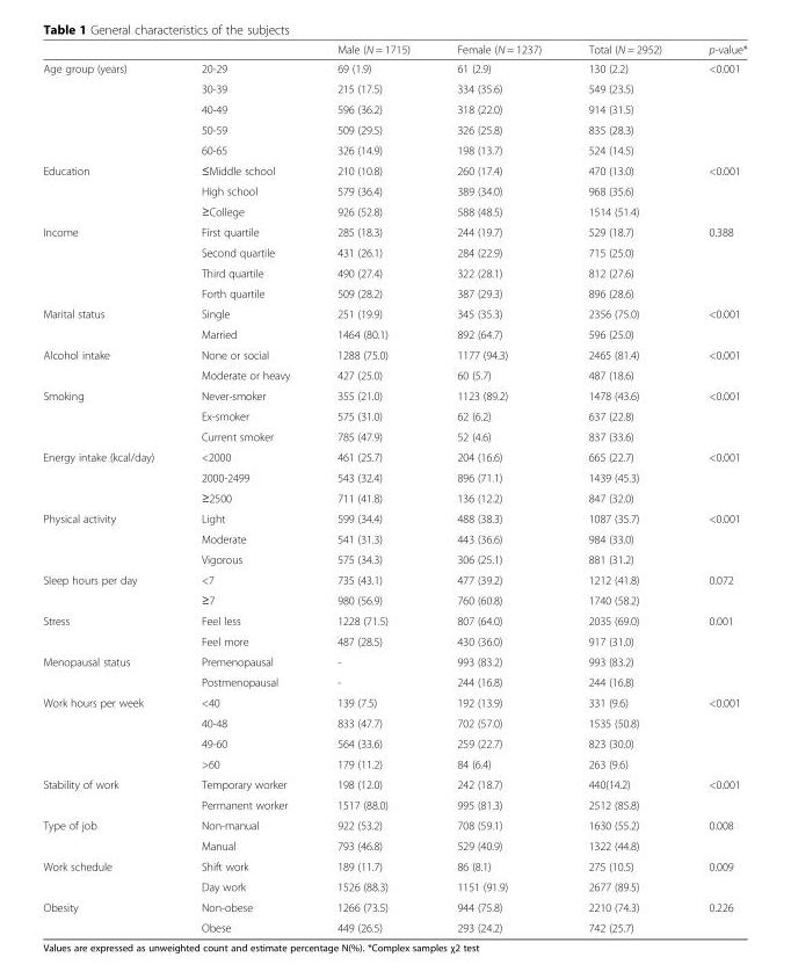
<table><thead><tr><td></td><td></td><td>Male (N = 1715)</td><td>Female (N = 1237)</td><td>Total (N = 2952)</td><td>p-value*</td></tr></thead><tbody><tr><td rowspan="5">Age group (years)</td><td>20-29</td><td>69 (1.9)</td><td>61 (2.9)</td><td>130 (2.2)</td><td>&lt;0.001</td></tr><tr><td>30-39</td><td>215 (17.5)</td><td>334 (35.6)</td><td>549 (23.5)</td><td></td></tr><tr><td>40-49</td><td>596 (36.2)</td><td>318 (22.0)</td><td>914 (31.5)</td><td></td></tr><tr><td>50-59</td><td>509 (29.5)</td><td>326 (25.8)</td><td>835 (28.3)</td><td></td></tr><tr><td>60-65</td><td>326 (14.9)</td><td>198 (13.7)</td><td>524 (14.5)</td><td></td></tr><tr><td rowspan="3">Education</td><td>≤Middle school</td><td>210 (10.8)</td><td>260 (17.4)</td><td>470 (13.0)</td><td>&lt;0.001</td></tr><tr><td>High school</td><td>579 (36.4)</td><td>389 (34.0)</td><td>968 (35.6)</td><td></td></tr><tr><td>≥College</td><td>926 (52.8)</td><td>588 (48.5)</td><td>1514 (51.4)</td><td></td></tr><tr><td rowspan="4">Income</td><td>First quartile</td><td>285 (18.3)</td><td>244 (19.7)</td><td>529 (18.7)</td><td>0.388</td></tr><tr><td>Second quartile</td><td>431 (26.1)</td><td>284 (22.9)</td><td>715 (25.0)</td><td></td></tr><tr><td>Third quartile</td><td>490 (27.4)</td><td>322 (28.1)</td><td>812 (27.6)</td><td></td></tr><tr><td>Forth quartile</td><td>509 (28.2)</td><td>387 (29.3)</td><td>896 (28.6)</td><td></td></tr><tr><td rowspan="2">Marital status</td><td>Single</td><td>251 (19.9)</td><td>345 (35.3)</td><td>2356 (75.0)</td><td>&lt;0.001</td></tr><tr><td>Married</td><td>1464 (80.1)</td><td>892 (64.7)</td><td>596 (25.0)</td><td></td></tr><tr><td rowspan="2">Alcohol intake</td><td>None or social</td><td>1288 (75.0)</td><td>1177 (94.3)</td><td>2465 (81.4)</td><td>&lt;0.001</td></tr><tr><td>Moderate or heavy</td><td>427 (25.0)</td><td>60 (5.7)</td><td>487 (18.6)</td><td></td></tr><tr><td rowspan="3">Smoking</td><td>Never-smoker</td><td>355 (21.0)</td><td>1123 (89.2)</td><td>1478 (43.6)</td><td>&lt;0.001</td></tr><tr><td>Ex-smoker</td><td>575 (31.0)</td><td>62 (6.2)</td><td>637 (22.8)</td><td></td></tr><tr><td>Current smoker</td><td>785 (47.9)</td><td>52 (4.6)</td><td>837 (33.6)</td><td></td></tr><tr><td rowspan="3">Energy intake (kcal/day)</td><td>&lt;2000</td><td>461 (25.7)</td><td>204 (16.6)</td><td>665 (22.7)</td><td>&lt;0.001</td></tr><tr><td>2000-2499</td><td>543 (32.4)</td><td>896 (71.1)</td><td>1439 (45.3)</td><td></td></tr><tr><td>≥2500</td><td>711 (41.8)</td><td>136 (12.2)</td><td>847 (32.0)</td><td></td></tr><tr><td rowspan="3">Physical activity</td><td>Light</td><td>599 (34.4)</td><td>488 (38.3)</td><td>1087 (35.7)</td><td>&lt;0.001</td></tr><tr><td>Moderate</td><td>541 (31.3)</td><td>443 (36.6)</td><td>984 (33.0)</td><td></td></tr><tr><td>Vigorous</td><td>575 (34.3)</td><td>306 (25.1)</td><td>881 (31.2)</td><td></td></tr><tr><td rowspan="2">Sleep hours per day</td><td>&lt;7</td><td>735 (43.1)</td><td>477 (39.2)</td><td>1212 (41.8)</td><td>0.072</td></tr><tr><td>≥7</td><td>980 (56.9)</td><td>760 (60.8)</td><td>1740 (58.2)</td><td></td></tr><tr><td rowspan="2">Stress</td><td>Feel less</td><td>1228 (71.5)</td><td>807 (64.0)</td><td>2035 (69.0)</td><td>0.001</td></tr><tr><td>Feel more</td><td>487 (28.5)</td><td>430 (36.0)</td><td>917 (31.0)</td><td></td></tr><tr><td rowspan="2">Menopausal status</td><td>Premenopausal</td><td>-</td><td>993 (83.2)</td><td>993 (83.2)</td><td></td></tr><tr><td>Postmenopausal</td><td>-</td><td>244 (16.8)</td><td>244 (16.8)</td><td></td></tr><tr><td rowspan="4">Work hours per week</td><td>&lt;40</td><td>139 (7.5)</td><td>192 (13.9)</td><td>331 (9.6)</td><td>&lt;0.001</td></tr><tr><td>40-48</td><td>833 (47.7)</td><td>702 (57.0)</td><td>1535 (50.8)</td><td></td></tr><tr><td>49-60</td><td>564 (33.6)</td><td>259 (22.7)</td><td>823 (30.0)</td><td></td></tr><tr><td>&gt;60</td><td>179 (11.2)</td><td>84 (6.4)</td><td>263 (9.6)</td><td></td></tr><tr><td rowspan="2">Stability of work</td><td>Temporary worker</td><td>198 (12.0)</td><td>242 (18.7)</td><td>440(14.2)</td><td>&lt;0.001</td></tr><tr><td>Permanent worker</td><td>1517 (88.0)</td><td>995 (81.3)</td><td>2512 (85.8)</td><td></td></tr><tr><td rowspan="2">Type of job</td><td>Non-manual</td><td>922 (53.2)</td><td>708 (59.1)</td><td>1630 (55.2)</td><td>0.008</td></tr><tr><td>Manual</td><td>793 (46.8)</td><td>529 (40.9)</td><td>1322 (44.8)</td><td></td></tr><tr><td rowspan="2">Work schedule</td><td>Shift work</td><td>189 (11.7)</td><td>86 (8.1)</td><td>275 (10.5)</td><td>0.009</td></tr><tr><td>Day work</td><td>1526 (88.3)</td><td>1151 (91.9)</td><td>2677 (89.5)</td><td></td></tr><tr><td rowspan="2">Obesity</td><td>Non-obese</td><td>1266 (73.5)</td><td>944 (75.8)</td><td>2210 (74.3)</td><td>0.226</td></tr><tr><td>Obese</td><td>449 (26.5)</td><td>293 (24.2)</td><td>742 (25.7)</td><td></td></tr></tbody></table>